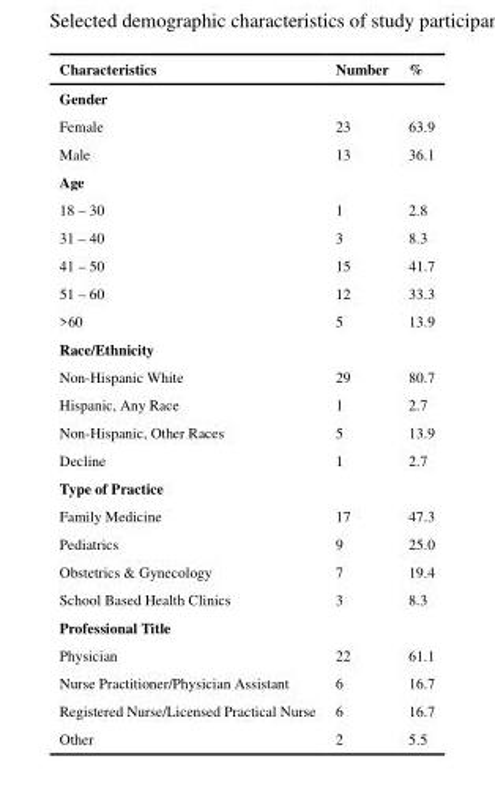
<table><thead><tr><td>Characteristics</td><td>Number</td><td>%</td></tr></thead><tbody><tr><td colspan="3">Gender</td></tr><tr><td>Female</td><td>23</td><td>63.9</td></tr><tr><td>Male</td><td>13</td><td>36.1</td></tr><tr><td colspan="3">Age</td></tr><tr><td>18 – 30</td><td>1</td><td>2.8</td></tr><tr><td>31 – 40</td><td>3</td><td>8.3</td></tr><tr><td>41 – 50</td><td>15</td><td>41.7</td></tr><tr><td>51 – 60</td><td>12</td><td>33.3</td></tr><tr><td>&gt;60</td><td>5</td><td>13.9</td></tr><tr><td colspan="3">Race/Ethnicity</td></tr><tr><td>Non-Hispanic White</td><td>29</td><td>80.7</td></tr><tr><td>Hispanic, Any Race</td><td>1</td><td>2.7</td></tr><tr><td>Non-Hispanic, Other Races</td><td>5</td><td>13.9</td></tr><tr><td>Decline</td><td>1</td><td>2.7</td></tr><tr><td colspan="3">Type of Practice</td></tr><tr><td>Family Medicine</td><td>17</td><td>47.3</td></tr><tr><td>Pediatrics</td><td>9</td><td>25.0</td></tr><tr><td>Obstetrics &amp; Gynecology</td><td>7</td><td>19.4</td></tr><tr><td>School Based Health Clinics</td><td>3</td><td>8.3</td></tr><tr><td colspan="3">Professional Title</td></tr><tr><td>Physician</td><td>22</td><td>61.1</td></tr><tr><td>Nurse Practitioner/Physician Assistant</td><td>6</td><td>16.7</td></tr><tr><td>Registered Nurse/Licensed Practical Nurse</td><td>6</td><td>16.7</td></tr><tr><td>Other</td><td>2</td><td>5.5</td></tr></tbody></table>